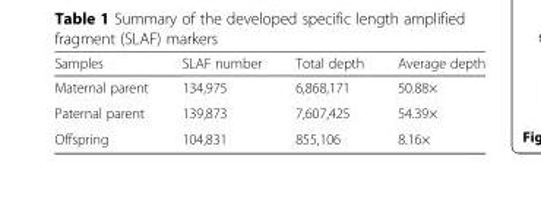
<table><thead><tr><td>Samples</td><td>SLAF number</td><td>Total depth</td><td>Average depth</td></tr></thead><tbody><tr><td>Maternal parent</td><td>134,975</td><td>6,868,171</td><td>50.88×</td></tr><tr><td>Paternal parent</td><td>139,873</td><td>7,607,425</td><td>54.39×</td></tr><tr><td>Offspring</td><td>104,831</td><td>855,106</td><td>8.16×</td></tr></tbody></table>